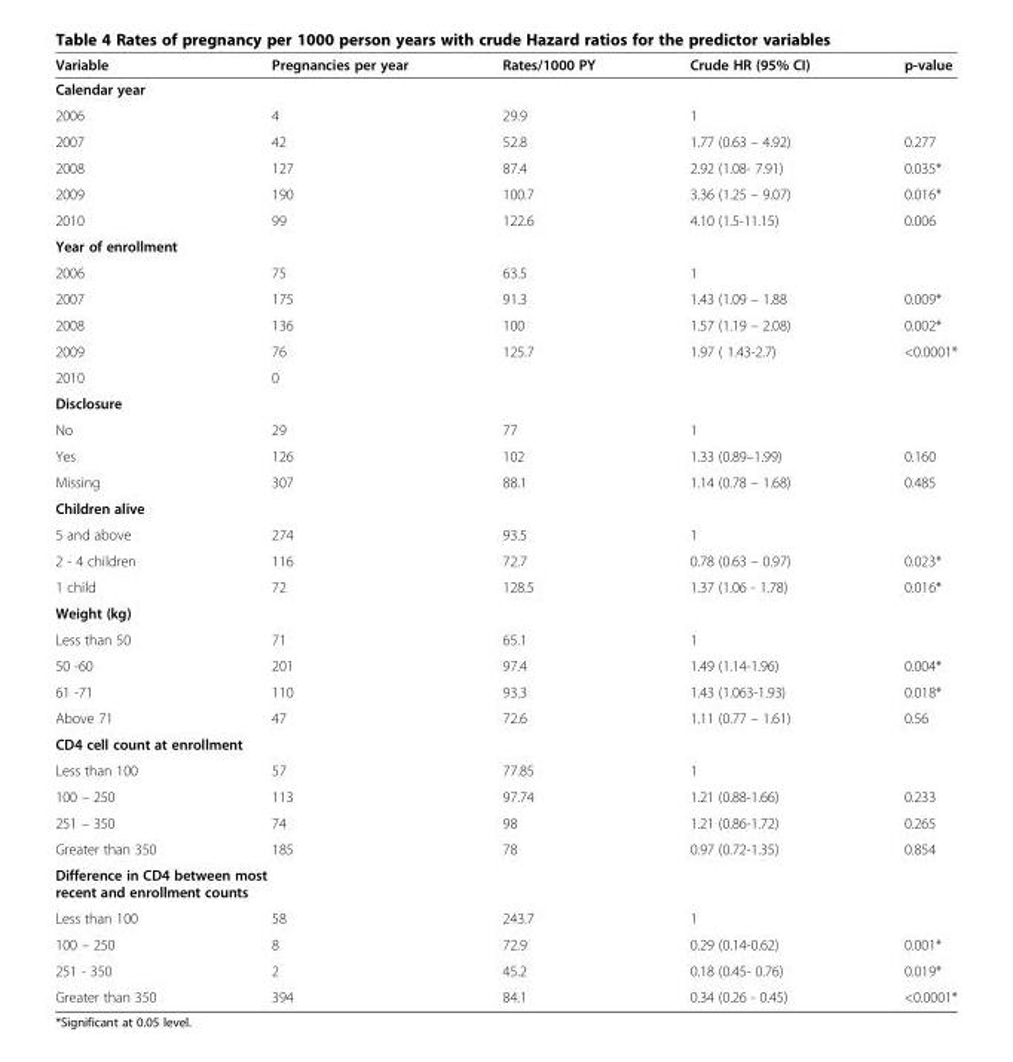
<table><thead><tr><td>Variable</td><td>Pregnancies per year</td><td>Rates/1000 PY</td><td>Crude HR (95% CI)</td><td>p-value</td></tr></thead><tbody><tr><td colspan="5">Calendar year</td></tr><tr><td>2006</td><td>4</td><td>29.9</td><td>1</td><td></td></tr><tr><td>2007</td><td>42</td><td>52.8</td><td>1.77 (0.63 – 4.92)</td><td>0.277</td></tr><tr><td>2008</td><td>127</td><td>87.4</td><td>2.92 (1.08- 7.91)</td><td>0.035*</td></tr><tr><td>2009</td><td>190</td><td>100.7</td><td>3.36 (1.25 – 9.07)</td><td>0.016*</td></tr><tr><td>2010</td><td>99</td><td>122.6</td><td>4.10 (1.5-11.15)</td><td>0.006</td></tr><tr><td colspan="5">Year of enrollment</td></tr><tr><td>2006</td><td>75</td><td>63.5</td><td>1</td><td></td></tr><tr><td>2007</td><td>175</td><td>91.3</td><td>1.43 (1.09 – 1.88</td><td>0.009*</td></tr><tr><td>2008</td><td>136</td><td>100</td><td>1.57 (1.19 – 2.08)</td><td>0.002*</td></tr><tr><td>2009</td><td>76</td><td>125.7</td><td>1.97 ( 1.43-2.7)</td><td>&lt;0.0001*</td></tr><tr><td>2010</td><td>0</td><td></td><td></td><td></td></tr><tr><td colspan="5">Disclosure</td></tr><tr><td>No</td><td>29</td><td>77</td><td>1</td><td></td></tr><tr><td>Yes</td><td>126</td><td>102</td><td>1.33 (0.89–1.99)</td><td>0.160</td></tr><tr><td>Missing</td><td>307</td><td>88.1</td><td>1.14 (0.78 – 1.68)</td><td>0.485</td></tr><tr><td colspan="5">Children alive</td></tr><tr><td>5 and above</td><td>274</td><td>93.5</td><td>1</td><td></td></tr><tr><td>2 - 4 children</td><td>116</td><td>72.7</td><td>0.78 (0.63 – 0.97)</td><td>0.023*</td></tr><tr><td>1 child</td><td>72</td><td>128.5</td><td>1.37 (1.06 - 1.78)</td><td>0.016*</td></tr><tr><td colspan="5">Weight (kg)</td></tr><tr><td>Less than 50</td><td>71</td><td>65.1</td><td>1</td><td></td></tr><tr><td>50 -60</td><td>201</td><td>97.4</td><td>1.49 (1.14-1.96)</td><td>0.004*</td></tr><tr><td>61 -71</td><td>110</td><td>93.3</td><td>1.43 (1.063-1.93)</td><td>0.018*</td></tr><tr><td>Above 71</td><td>47</td><td>72.6</td><td>1.11 (0.77 – 1.61)</td><td>0.56</td></tr><tr><td colspan="5">CD4 cell count at enrollment</td></tr><tr><td>Less than 100</td><td>57</td><td>77.85</td><td>1</td><td></td></tr><tr><td>100 – 250</td><td>113</td><td>97.74</td><td>1.21 (0.88-1.66)</td><td>0.233</td></tr><tr><td>251 – 350</td><td>74</td><td>98</td><td>1.21 (0.86-1.72)</td><td>0.265</td></tr><tr><td>Greater than 350</td><td>185</td><td>78</td><td>0.97 (0.72-1.35)</td><td>0.854</td></tr><tr><td colspan="5">Difference in CD4 between most recent and enrollment counts</td></tr><tr><td>Less than 100</td><td>58</td><td>243.7</td><td>1</td><td></td></tr><tr><td>100 – 250</td><td>8</td><td>72.9</td><td>0.29 (0.14-0.62)</td><td>0.001*</td></tr><tr><td>251 - 350</td><td>2</td><td>45.2</td><td>0.18 (0.45- 0.76)</td><td>0.019*</td></tr><tr><td>Greater than 350</td><td>394</td><td>84.1</td><td>0.34 (0.26 - 0.45)</td><td>&lt;0.0001*</td></tr></tbody></table>